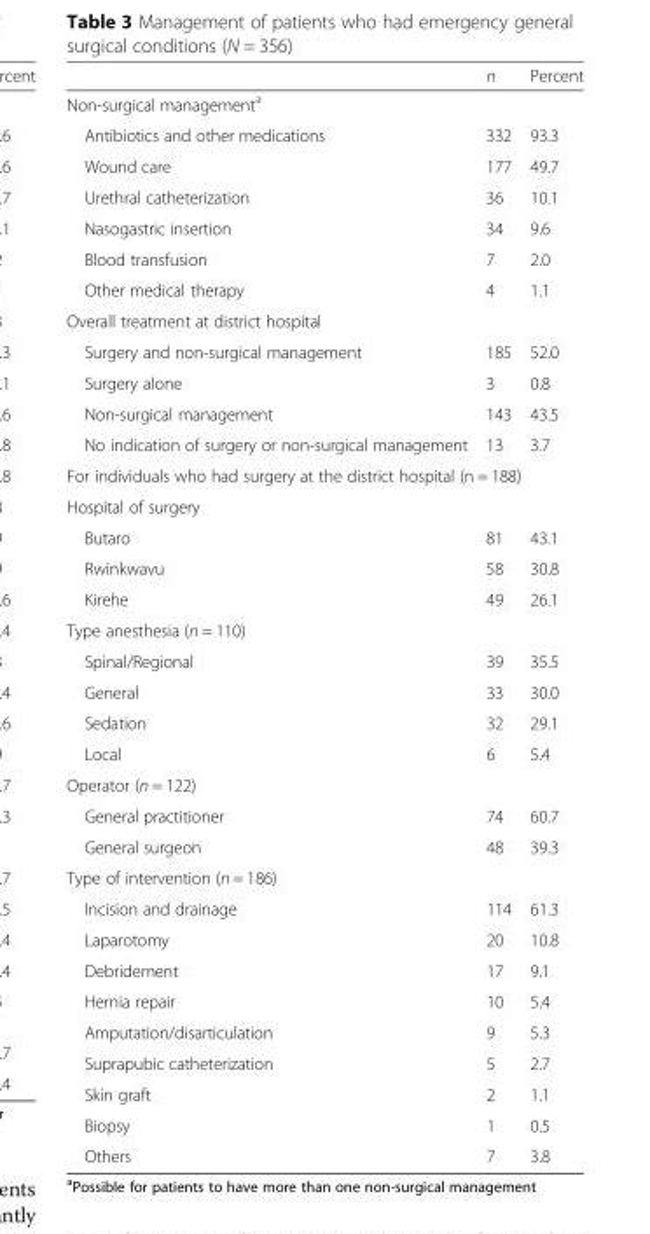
<table><thead><tr><td></td><td>n</td><td>Percent</td></tr></thead><tbody><tr><td colspan="3">Non-surgical management<sup>a</sup></td></tr><tr><td>Antibiotics and other medications</td><td>332</td><td>93.3</td></tr><tr><td>Wound care</td><td>177</td><td>49.7</td></tr><tr><td>Urethral catheterization</td><td>36</td><td>10.1</td></tr><tr><td>Nasogastric insertion</td><td>34</td><td>9.6</td></tr><tr><td>Blood transfusion</td><td>7</td><td>2.0</td></tr><tr><td>Other medical therapy</td><td>4</td><td>1.1</td></tr><tr><td colspan="3">Overall treatment at district hospital</td></tr><tr><td>Surgery and non-surgical management</td><td>185</td><td>52.0</td></tr><tr><td>Surgery alone</td><td>3</td><td>0.8</td></tr><tr><td>Non-surgical management</td><td>143</td><td>43.5</td></tr><tr><td>No indication of surgery or non-surgical management</td><td>13</td><td>3.7</td></tr><tr><td colspan="3">For individuals who had surgery at the district hospital (n = 188)</td></tr><tr><td colspan="3">Hospital of surgery</td></tr><tr><td>Butaro</td><td>81</td><td>43.1</td></tr><tr><td>Rwinkwavu</td><td>58</td><td>30.8</td></tr><tr><td>Kirehe</td><td>49</td><td>26.1</td></tr><tr><td colspan="3">Type anesthesia (n = 110)</td></tr><tr><td>Spinal/Regional</td><td>39</td><td>35.5</td></tr><tr><td>General</td><td>33</td><td>30.0</td></tr><tr><td>Sedation</td><td>32</td><td>29.1</td></tr><tr><td>Local</td><td>6</td><td>5.4</td></tr><tr><td colspan="3">Operator (n = 122)</td></tr><tr><td>General practitioner</td><td>74</td><td>60.7</td></tr><tr><td>General surgeon</td><td>48</td><td>39.3</td></tr><tr><td colspan="3">Type of intervention (n = 186)</td></tr><tr><td>Incision and drainage</td><td>114</td><td>61.3</td></tr><tr><td>Laparotomy</td><td>20</td><td>10.8</td></tr><tr><td>Debridement</td><td>17</td><td>9.1</td></tr><tr><td>Hernia repair</td><td>10</td><td>5.4</td></tr><tr><td>Amputation/disarticulation</td><td>9</td><td>5.3</td></tr><tr><td>Suprapubic catheterization</td><td>5</td><td>2.7</td></tr><tr><td>Skin graft</td><td>2</td><td>1.1</td></tr><tr><td>Biopsy</td><td>1</td><td>0.5</td></tr><tr><td>Others</td><td>7</td><td>3.8</td></tr></tbody></table>